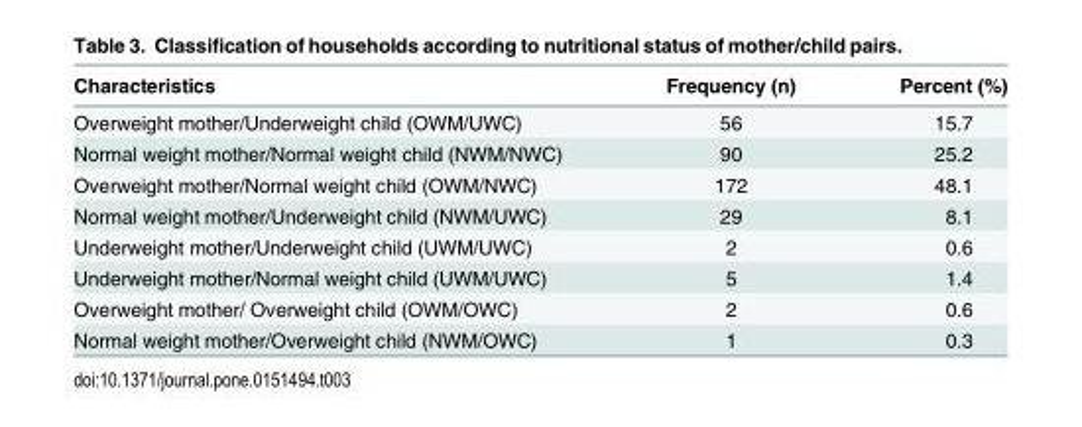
<table><thead><tr><td>Characteristics</td><td>Frequency (n)</td><td>Percent (%)</td></tr></thead><tbody><tr><td>Overweight mother/Underweight child (OWM/UWC)</td><td>56</td><td>15.7</td></tr><tr><td>Normal weight mother/Normal weight child (NWM/NWC)</td><td>90</td><td>25.2</td></tr><tr><td>Overweight mother/Normal weight child (OWM/NWC)</td><td>172</td><td>48.1</td></tr><tr><td>Normal weight mother/Underweight child (NWM/UWC)</td><td>29</td><td>8.1</td></tr><tr><td>Underweight mother/Underweight child (UWM/UWC)</td><td>2</td><td>0.6</td></tr><tr><td>Underweight mother/Normal weight child (UWM/UWC)</td><td>5</td><td>1.4</td></tr><tr><td>Overweight mother/ Overweight child (OWM/OWC)</td><td>2</td><td>0.6</td></tr><tr><td>Normal weight mother/Overweight child (NWM/OWC)</td><td>1</td><td>0.3</td></tr></tbody></table>